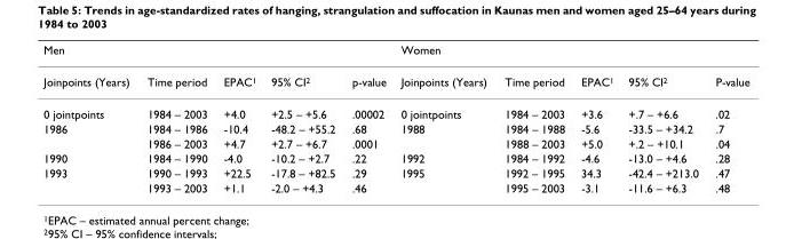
<table><thead><tr><td colspan="5">Men</td><td colspan="5">Women</td></tr><tr><td>Joinpoints (Years)</td><td>Time period</td><td>EPAC1</td><td>95% CI2</td><td>p-value</td><td>Joinpoints (Years)</td><td>Time period</td><td>EPAC1</td><td>95% CI2</td><td>P-value</td></tr></thead><tbody><tr><td>0 jointpoints</td><td>1984 – 2003</td><td>+4.0</td><td>+2.5 – +5.6</td><td>.00002</td><td>0 jointpoints</td><td>1984 – 2003</td><td>+3.6</td><td>+.7 – +6.6</td><td>.02</td></tr><tr><td rowspan="2">1986</td><td>1984 – 1986</td><td>-10.4</td><td>-48.2 – +55.2</td><td>.68</td><td>1988</td><td>1984 – 1988</td><td>-5.6</td><td>-33.5 – +34.2</td><td>.7</td></tr><tr><td>1986 – 2003</td><td>+4.7</td><td>+2.7 – +6.7</td><td>.0001</td><td></td><td>1988 – 2003</td><td>+5.0</td><td>+.2 – +10.1</td><td>.04</td></tr><tr><td>1990</td><td>1984 – 1990</td><td>-4.0</td><td>-10.2 – +2.7</td><td>.22</td><td>1992</td><td>1984 – 1992</td><td>-4.6</td><td>-13.0 – +4.6</td><td>.28</td></tr><tr><td rowspan="2">1993</td><td>1990 – 1993</td><td>+22.5</td><td>-17.8 – +82.5</td><td>.29</td><td>1995</td><td>1992 – 1995</td><td>34.3</td><td>-42.4 – +213.0</td><td>.47</td></tr><tr><td>1993 – 2003</td><td>+1.1</td><td>-2.0 – +4.3</td><td>.46</td><td></td><td>1995 – 2003</td><td>-3.1</td><td>-11.6 – +6.3</td><td>.48</td></tr></tbody></table>